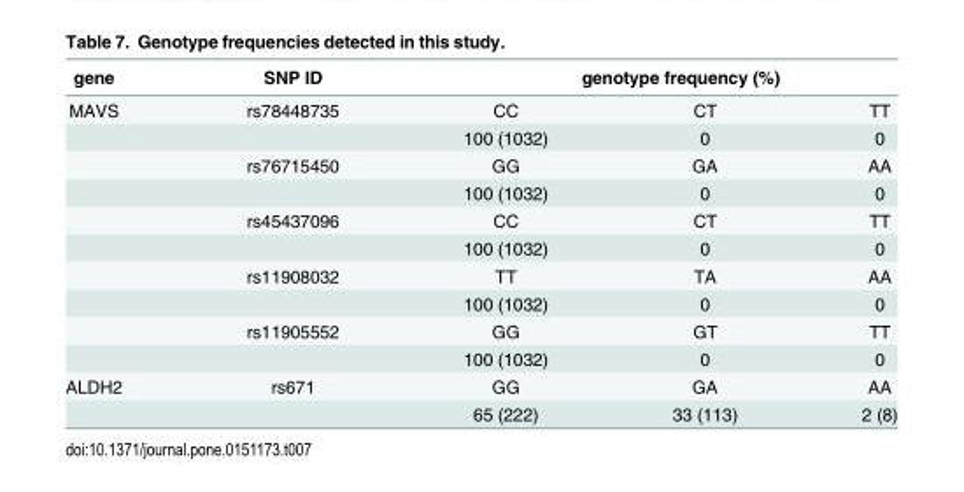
<table><thead><tr><td rowspan="2">gene MAVS</td><td rowspan="2">SNP ID rs78448735</td><td colspan="3">genotype frequency (%)</td></tr><tr><td>CC</td><td>CT</td><td>TT</td></tr></thead><tbody><tr><td></td><td></td><td>100 (1032)</td><td>0</td><td>0</td></tr><tr><td></td><td>rs76715450</td><td>GG</td><td>GA</td><td>AA</td></tr><tr><td></td><td></td><td>100 (1032)</td><td>0</td><td>0</td></tr><tr><td></td><td>rs45437096</td><td>CC</td><td>CT</td><td>TT</td></tr><tr><td></td><td></td><td>100 (1032)</td><td>0</td><td>0</td></tr><tr><td></td><td>rs11908032</td><td>TT</td><td>TA</td><td>AA</td></tr><tr><td></td><td></td><td>100 (1032)</td><td>0</td><td>0</td></tr><tr><td></td><td>rs11905552</td><td>GG</td><td>GT</td><td>TT</td></tr><tr><td></td><td></td><td>100 (1032)</td><td>0</td><td>0</td></tr><tr><td rowspan="2">ALDH2</td><td>rs671</td><td>GG</td><td>GA</td><td>AA</td></tr><tr><td></td><td>65 (222)</td><td>33 (113)</td><td>2 (8)</td></tr></tbody></table>